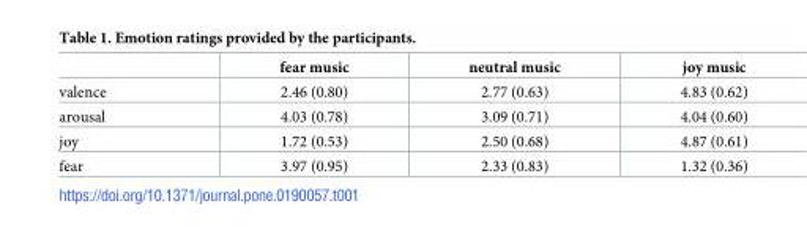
<table><thead><tr><td></td><td>fear music</td><td>neutral music</td><td>joy music</td></tr></thead><tbody><tr><td>valence</td><td>2.46 (0.80)</td><td>2.77 (0.63)</td><td>4.83 (0.62)</td></tr><tr><td>arousal</td><td>4.03 (0.78)</td><td>3.09 (0.71)</td><td>4.04 (0.60)</td></tr><tr><td>joy</td><td>1.72 (0.53)</td><td>2.50 (0.68)</td><td>4.87 (0.61)</td></tr><tr><td>fear</td><td>3.97 (0.95)</td><td>2.33 (0.83)</td><td>1.32 (0.36)</td></tr></tbody></table>